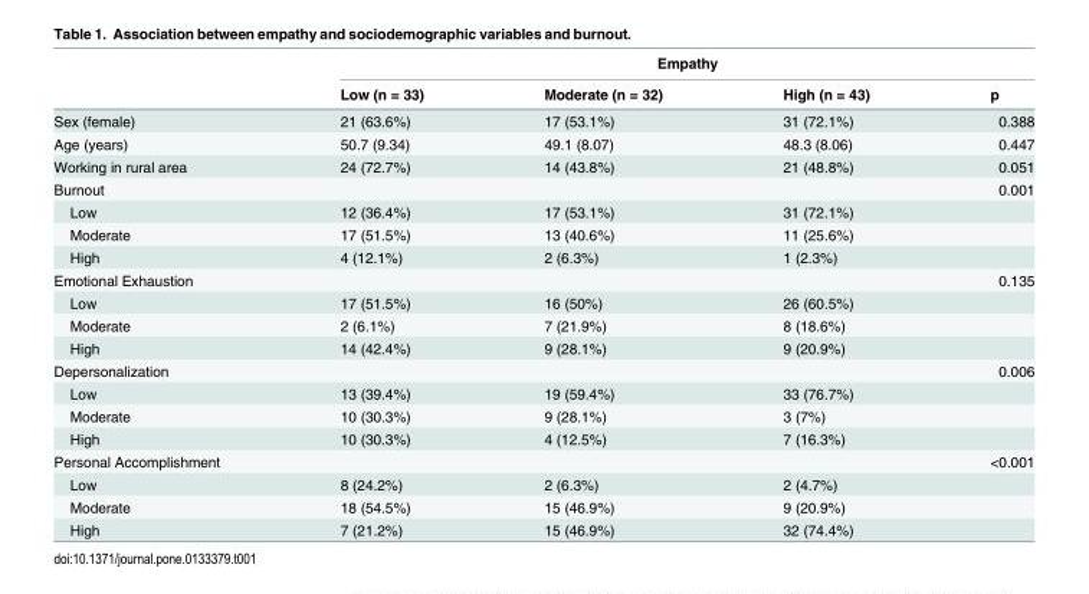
<table><thead><tr><td rowspan="2"></td><td colspan="4">Empathy</td></tr><tr><td>Low (n = 33)</td><td>Moderate (n = 32)</td><td>High (n = 43)</td><td>p</td></tr></thead><tbody><tr><td>Sex (female)</td><td>21 (63.6%)</td><td>17 (53.1%)</td><td>31 (72.1%)</td><td>0.388</td></tr><tr><td>Age (years)</td><td>50.7 (9.34)</td><td>49.1 (8.07)</td><td>48.3 (8.06)</td><td>0.447</td></tr><tr><td>Working in rural area</td><td>24 (72.7%)</td><td>14 (43.8%)</td><td>21 (48.8%)</td><td>0.051</td></tr><tr><td>Burnout</td><td></td><td></td><td></td><td>0.001</td></tr><tr><td>Low</td><td>12 (36.4%)</td><td>17 (53.1%)</td><td>31 (72.1%)</td><td></td></tr><tr><td>Moderate</td><td>17 (51.5%)</td><td>13 (40.6%)</td><td>11 (25.6%)</td><td></td></tr><tr><td>High</td><td>4 (12.1%)</td><td>2 (6.3%)</td><td>1 (2.3%)</td><td></td></tr><tr><td>Emotional Exhaustion</td><td></td><td></td><td></td><td>0.135</td></tr><tr><td>Low</td><td>17 (51.5%)</td><td>16 (50%)</td><td>26 (60.5%)</td><td></td></tr><tr><td>Moderate</td><td>2 (6.1%)</td><td>7 (21.9%)</td><td>8 (18.6%)</td><td></td></tr><tr><td>High</td><td>14 (42.4%)</td><td>9 (28.1%)</td><td>9 (20.9%)</td><td></td></tr><tr><td>Depersonalization</td><td></td><td></td><td></td><td>0.006</td></tr><tr><td>Low</td><td>13 (39.4%)</td><td>19 (59.4%)</td><td>33 (76.7%)</td><td></td></tr><tr><td>Moderate</td><td>10 (30.3%)</td><td>9 (28.1%)</td><td>3 (7%)</td><td></td></tr><tr><td>High</td><td>10 (30.3%)</td><td>4 (12.5%)</td><td>7 (16.3%)</td><td></td></tr><tr><td>Personal Accomplishment</td><td></td><td></td><td></td><td>&lt;0.001</td></tr><tr><td>Low</td><td>8 (24.2%)</td><td>2 (6.3%)</td><td>2 (4.7%)</td><td></td></tr><tr><td>Moderate</td><td>18 (54.5%)</td><td>15 (46.9%)</td><td>9 (20.9%)</td><td></td></tr><tr><td>High</td><td>7 (21.2%)</td><td>15 (46.9%)</td><td>32 (74.4%)</td><td></td></tr></tbody></table>